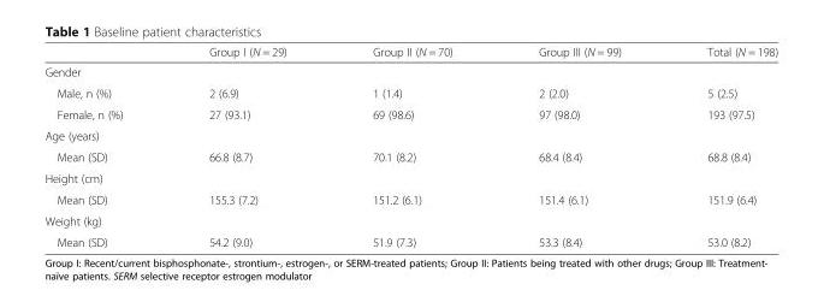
<table><thead><tr><td></td><td>Group I (N = 29)</td><td>Group II (N = 70)</td><td>Group III (N = 99)</td><td>Total (N = 198)</td></tr></thead><tbody><tr><td colspan="5">Gender</td></tr><tr><td>Male, n (%)</td><td>2 (6.9)</td><td>1 (1.4)</td><td>2 (2.0)</td><td>5 (2.5)</td></tr><tr><td>Female, n (%)</td><td>27 (93.1)</td><td>69 (98.6)</td><td>97 (98.0)</td><td>193 (97.5)</td></tr><tr><td colspan="5">Age (years)</td></tr><tr><td>Mean (SD)</td><td>66.8 (8.7)</td><td>70.1 (8.2)</td><td>68.4 (8.4)</td><td>68.8 (8.4)</td></tr><tr><td colspan="5">Height (cm)</td></tr><tr><td>Mean (SD)</td><td>155.3 (7.2)</td><td>151.2 (6.1)</td><td>151.4 (6.1)</td><td>151.9 (6.4)</td></tr><tr><td colspan="5">Weight (kg)</td></tr><tr><td>Mean (SD)</td><td>54.2 (9.0)</td><td>51.9 (7.3)</td><td>53.3 (8.4)</td><td>53.0 (8.2)</td></tr></tbody></table>